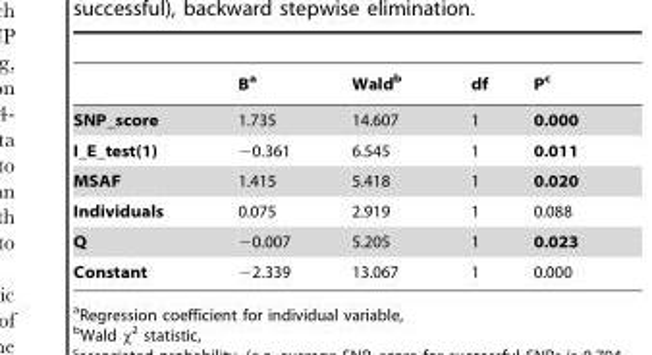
<table><thead><tr><td></td><td>B<sup>a</sup></td><td>Wald<sup>b</sup></td><td>df</td><td>P<sup>c</sup></td></tr></thead><tbody><tr><td>SNP_score</td><td>1.735</td><td>14.607</td><td>1</td><td>0.000</td></tr><tr><td>I_E_test(1)</td><td>−0.361</td><td>6.545</td><td>1</td><td>0.011</td></tr><tr><td>MSAF</td><td>1.415</td><td>5.418</td><td>1</td><td>0.020</td></tr><tr><td>Individuals</td><td>0.075</td><td>2.919</td><td>1</td><td>0.088</td></tr><tr><td>Q</td><td>−0.007</td><td>5.205</td><td>1</td><td>0.023</td></tr><tr><td>Constant</td><td>−2.339</td><td>13.067</td><td>1</td><td>0.000</td></tr></tbody></table>